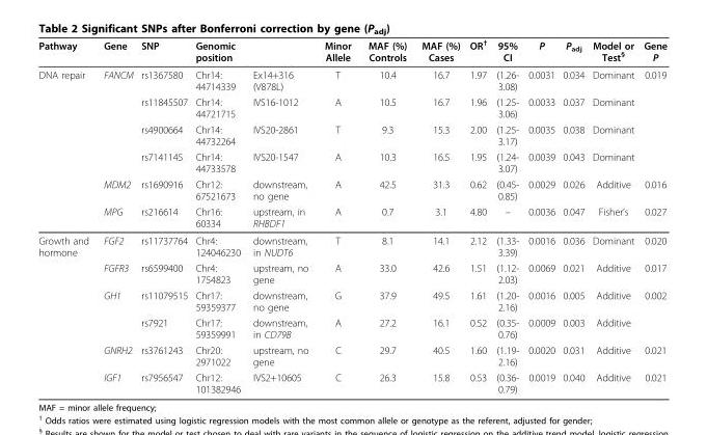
<table><thead><tr><td>Pathway</td><td>Gene</td><td>SNP</td><td>Genomic position</td><td></td><td>Minor Allele</td><td>MAF (%) Controls</td><td>MAF (%) Cases</td><td>OR<sup>†</sup></td><td>95% CI</td><td>P</td><td>P<sub>adj</sub></td><td>Model or Test<sup>§</sup></td><td>Gene P</td></tr></thead><tbody><tr><td rowspan="6">DNA repair</td><td>FANCM</td><td>rs1367580</td><td>Chr14: 44714339</td><td>Ex14+316 (V878L)</td><td>T</td><td>10.4</td><td>16.7</td><td>1.97</td><td>(1.26- 3.08)</td><td>0.0031</td><td>0.034</td><td>Dominant</td><td>0.019</td></tr><tr><td></td><td>rs11845507</td><td>Chr14: 44721715</td><td>IVS16-1012</td><td>A</td><td>10.5</td><td>16.7</td><td>1.96</td><td>(1.25- 3.06)</td><td>0.0033</td><td>0.037</td><td>Dominant</td><td></td></tr><tr><td></td><td>rs4900664</td><td>Chr14: 44732264</td><td>IVS20-2861</td><td>T</td><td>9.3</td><td>15.3</td><td>2.00</td><td>(1.25- 3.17)</td><td>0.0035</td><td>0.038</td><td>Dominant</td><td></td></tr><tr><td></td><td>rs7141145</td><td>Chr14: 44733578</td><td>IVS20-1547</td><td>A</td><td>10.3</td><td>16.5</td><td>1.95</td><td>(1.24- 3.07)</td><td>0.0039</td><td>0.043</td><td>Dominant</td><td></td></tr><tr><td>MDM2</td><td>rs1690916</td><td>Chr12: 67521673</td><td>downstream, no gene</td><td>A</td><td>42.5</td><td>31.3</td><td>0.62</td><td>(0.45- 0.85)</td><td>0.0029</td><td>0.026</td><td>Additive</td><td>0.016</td></tr><tr><td>MPG</td><td>rs216614</td><td>Chr16: 60334</td><td>upstream, in RHBDF1</td><td>A</td><td>0.7</td><td>3.1</td><td>4.80</td><td>–</td><td>0.0036</td><td>0.047</td><td>Fisher’s</td><td>0.027</td></tr><tr><td rowspan="6">Growth and hormone</td><td>FGF2</td><td>rs11737764</td><td>Chr4: 124046230</td><td>downstream, in NUDT6</td><td>T</td><td>8.1</td><td>14.1</td><td>2.12</td><td>(1.33- 3.39)</td><td>0.0016</td><td>0.036</td><td>Dominant</td><td>0.020</td></tr><tr><td>FGFR3</td><td>rs6599400</td><td>Chr4: 1754823</td><td>upstream, no gene</td><td>A</td><td>33.0</td><td>42.6</td><td>1.51</td><td>(1.12- 2.03)</td><td>0.0069</td><td>0.021</td><td>Additive</td><td>0.017</td></tr><tr><td>GH1</td><td>rs11079515</td><td>Chr17: 59359377</td><td>downstream, no gene</td><td>G</td><td>37.9</td><td>49.5</td><td>1.61</td><td>(1.20- 2.16)</td><td>0.0016</td><td>0.005</td><td>Additive</td><td>0.002</td></tr><tr><td></td><td>rs7921</td><td>Chr17: 59359991</td><td>downstream, in CD79B</td><td>A</td><td>27.2</td><td>16.1</td><td>0.52</td><td>(0.35- 0.76)</td><td>0.0009</td><td>0.003</td><td>Additive</td><td></td></tr><tr><td>GNRH2</td><td>rs3761243</td><td>Chr20: 2971022</td><td>upstream, no gene</td><td>C</td><td>29.7</td><td>40.5</td><td>1.60</td><td>(1.19- 2.16)</td><td>0.0020</td><td>0.031</td><td>Additive</td><td>0.021</td></tr><tr><td>IGF1</td><td>rs7956547</td><td>Chr12: 101382946</td><td>IVS2+10605</td><td>C</td><td>26.3</td><td>15.8</td><td>0.53</td><td>(0.36- 0.79)</td><td>0.0019</td><td>0.040</td><td>Additive</td><td>0.021</td></tr></tbody></table>